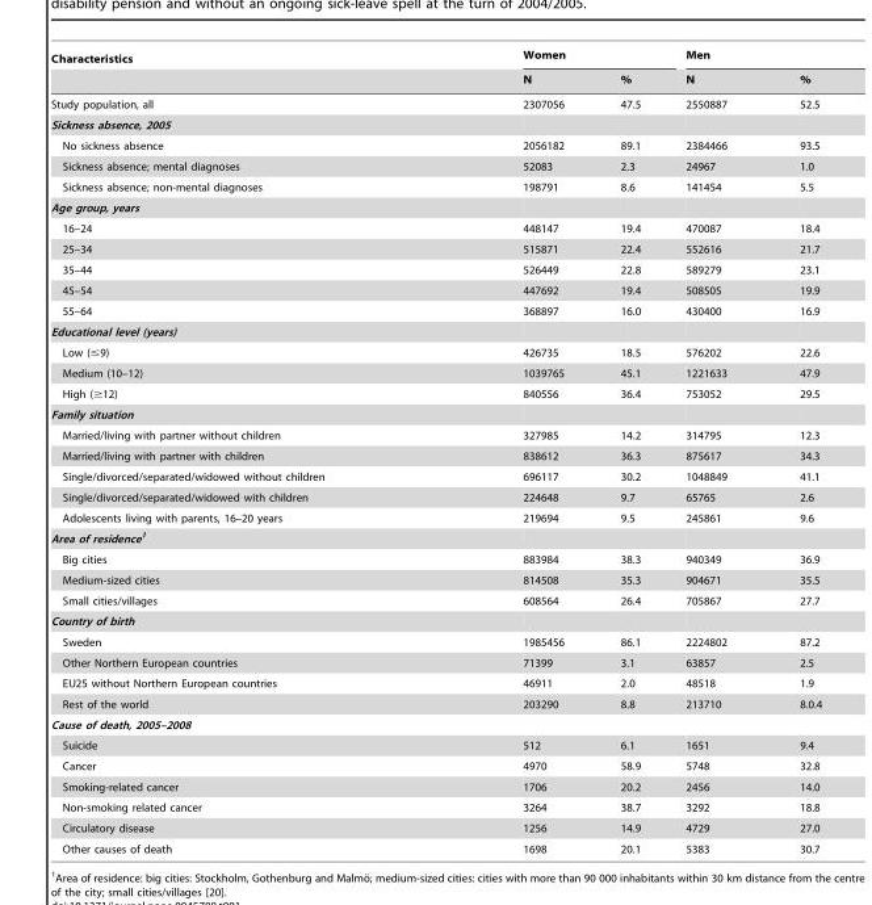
<table><thead><tr><td rowspan="2">Characteristics</td><td colspan="2">Women</td><td colspan="2">Men</td></tr><tr><td>N</td><td>%</td><td>N</td><td>%</td></tr></thead><tbody><tr><td>Study population, all</td><td>2307056</td><td>47.5</td><td>2550887</td><td>52.5</td></tr><tr><td colspan="5">Sickness absence, 2005</td></tr><tr><td>No sickness absence</td><td>2056182</td><td>89.1</td><td>2384466</td><td>93.5</td></tr><tr><td>Sickness absence; mental diagnoses</td><td>52083</td><td>2.3</td><td>24967</td><td>1.0</td></tr><tr><td>Sickness absence; non-mental diagnoses</td><td>198791</td><td>8.6</td><td>141454</td><td>5.5</td></tr><tr><td colspan="5">Age group, years</td></tr><tr><td>16–24</td><td>448147</td><td>19.4</td><td>470087</td><td>18.4</td></tr><tr><td>25–34</td><td>515871</td><td>22.4</td><td>552616</td><td>21.7</td></tr><tr><td>35–44</td><td>526449</td><td>22.8</td><td>589279</td><td>23.1</td></tr><tr><td>45–54</td><td>447692</td><td>19.4</td><td>508505</td><td>19.9</td></tr><tr><td>55–64</td><td>368897</td><td>16.0</td><td>430400</td><td>16.9</td></tr><tr><td colspan="5">Educational level (years)</td></tr><tr><td>Low (≤9)</td><td>426735</td><td>18.5</td><td>576202</td><td>22.6</td></tr><tr><td>Medium (10–12)</td><td>1039765</td><td>45.1</td><td>1221633</td><td>47.9</td></tr><tr><td>High (≥12)</td><td>840556</td><td>36.4</td><td>753052</td><td>29.5</td></tr><tr><td colspan="5">Family situation</td></tr><tr><td>Married/living with partner without children</td><td>327985</td><td>14.2</td><td>314795</td><td>12.3</td></tr><tr><td>Married/living with partner with children</td><td>838612</td><td>36.3</td><td>875617</td><td>34.3</td></tr><tr><td>Single/divorced/separated/widowed without children</td><td>696117</td><td>30.2</td><td>1048849</td><td>41.1</td></tr><tr><td>Single/divorced/separated/widowed with children</td><td>224648</td><td>9.7</td><td>65765</td><td>2.6</td></tr><tr><td>Adolescents living with parents, 16–20 years</td><td>219694</td><td>9.5</td><td>245861</td><td>9.6</td></tr><tr><td colspan="5">Area of residence1</td></tr><tr><td>Big cities</td><td>883984</td><td>38.3</td><td>940349</td><td>36.9</td></tr><tr><td>Medium-sized cities</td><td>814508</td><td>35.3</td><td>904671</td><td>35.5</td></tr><tr><td>Small cities/villages</td><td>608564</td><td>26.4</td><td>705867</td><td>27.7</td></tr><tr><td colspan="5">Country of birth</td></tr><tr><td>Sweden</td><td>1985456</td><td>86.1</td><td>2224802</td><td>87.2</td></tr><tr><td>Other Northern European countries</td><td>71399</td><td>3.1</td><td>63857</td><td>2.5</td></tr><tr><td>EU25 without Northern European countries</td><td>46911</td><td>2.0</td><td>48518</td><td>1.9</td></tr><tr><td>Rest of the world</td><td>203290</td><td>8.8</td><td>213710</td><td>8.0.4</td></tr><tr><td colspan="5">Cause of death, 2005–2008</td></tr><tr><td>Suicide</td><td>512</td><td>6.1</td><td>1651</td><td>9.4</td></tr><tr><td>Cancer</td><td>4970</td><td>58.9</td><td>5748</td><td>32.8</td></tr><tr><td>Smoking-related cancer</td><td>1706</td><td>20.2</td><td>2456</td><td>14.0</td></tr><tr><td>Non-smoking related cancer</td><td>3264</td><td>38.7</td><td>3292</td><td>18.8</td></tr><tr><td>Circulatory disease</td><td>1256</td><td>14.9</td><td>4729</td><td>27.0</td></tr><tr><td>Other causes of death</td><td>1698</td><td>20.1</td><td>5383</td><td>30.7</td></tr></tbody></table>